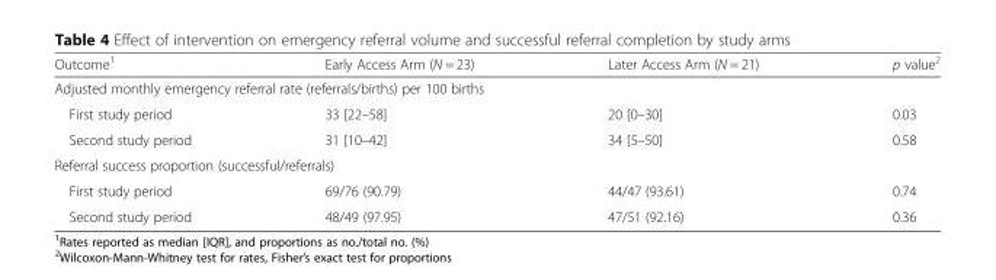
<table><thead><tr><td>Outcome<sup>1</sup></td><td>Early Access Arm (N = 23)</td><td>Later Access Arm (N = 21)</td><td>p value<sup>2</sup></td></tr></thead><tbody><tr><td colspan="4">Adjusted monthly emergency referral rate (referrals/births) per 100 births</td></tr><tr><td>First study period</td><td>33 [22–58]</td><td>20 [0–30]</td><td>0.03</td></tr><tr><td>Second study period</td><td>31 [10–42]</td><td>34 [5–50]</td><td>0.58</td></tr><tr><td colspan="4">Referral success proportion (successful/referrals)</td></tr><tr><td>First study period</td><td>69/76 (90.79)</td><td>44/47 (93.61)</td><td>0.74</td></tr><tr><td>Second study period</td><td>48/49 (97.95)</td><td>47/51 (92.16)</td><td>0.36</td></tr></tbody></table>